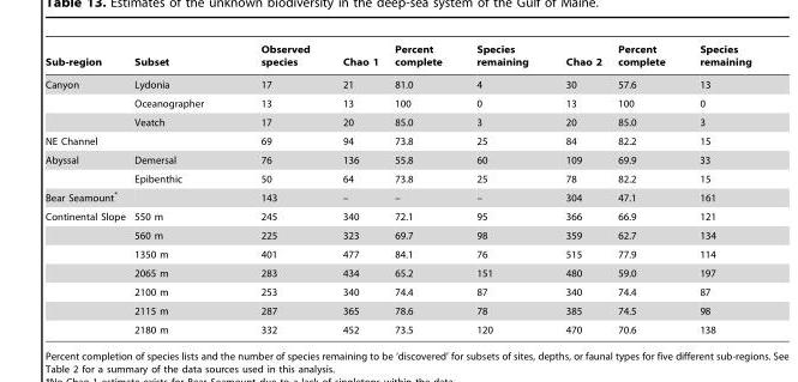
<table><thead><tr><td>Sub-region</td><td>Subset</td><td>Observed species</td><td>Chao 1</td><td>Percent complete</td><td>Species remaining</td><td>Chao 2</td><td>Percent complete</td><td>Species remaining</td></tr></thead><tbody><tr><td rowspan="3">Canyon</td><td>Lydonia</td><td>17</td><td>21</td><td>81.0</td><td>4</td><td>30</td><td>57.6</td><td>13</td></tr><tr><td>Oceanographer</td><td>13</td><td>13</td><td>100</td><td>0</td><td>13</td><td>100</td><td>0</td></tr><tr><td>Veatch</td><td>17</td><td>20</td><td>85.0</td><td>3</td><td>20</td><td>85.0</td><td>3</td></tr><tr><td>NE Channel</td><td></td><td>69</td><td>94</td><td>73.8</td><td>25</td><td>84</td><td>82.2</td><td>15</td></tr><tr><td rowspan="2">Abyssal</td><td>Demersal</td><td>76</td><td>136</td><td>55.8</td><td>60</td><td>109</td><td>69.9</td><td>33</td></tr><tr><td>Epibenthic</td><td>50</td><td>64</td><td>73.8</td><td>25</td><td>78</td><td>82.2</td><td>15</td></tr><tr><td>Bear Seamount*</td><td></td><td>143</td><td>–</td><td>–</td><td>–</td><td>304</td><td>47.1</td><td>161</td></tr><tr><td rowspan="7">Continental Slope</td><td>550 m</td><td>245</td><td>340</td><td>72.1</td><td>95</td><td>366</td><td>66.9</td><td>121</td></tr><tr><td>560 m</td><td>225</td><td>323</td><td>69.7</td><td>98</td><td>359</td><td>62.7</td><td>134</td></tr><tr><td>1350 m</td><td>401</td><td>477</td><td>84.1</td><td>76</td><td>515</td><td>77.9</td><td>114</td></tr><tr><td>2065 m</td><td>283</td><td>434</td><td>65.2</td><td>151</td><td>480</td><td>59.0</td><td>197</td></tr><tr><td>2100 m</td><td>253</td><td>340</td><td>74.4</td><td>87</td><td>340</td><td>74.4</td><td>87</td></tr><tr><td>2115 m</td><td>287</td><td>365</td><td>78.6</td><td>78</td><td>385</td><td>74.5</td><td>98</td></tr><tr><td>2180 m</td><td>332</td><td>452</td><td>73.5</td><td>120</td><td>470</td><td>70.6</td><td>138</td></tr></tbody></table>